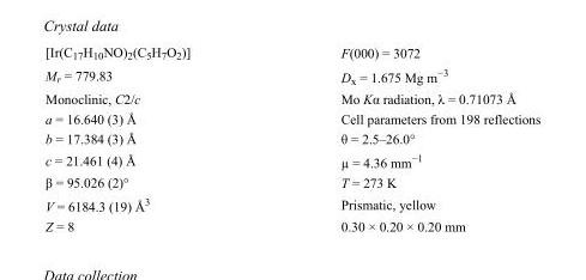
<table><tbody><tr><td>[Ir(C<sub>17</sub>H<sub>10</sub>NO)<sub>2</sub>(C<sub>5</sub>H<sub>7</sub>O<sub>2</sub>)]</td><td>F(000) = 3072</td></tr><tr><td>M<sub>r</sub> = 779.83</td><td>D<sub>x</sub> = 1.675 Mg m<sup>−3</sup></td></tr><tr><td>Monoclinic, C2/c</td><td>Mo Kα radiation, λ = 0.71073 Å</td></tr><tr><td>a = 16.640 (3) Å</td><td>Cell parameters from 198 reflections</td></tr><tr><td>b = 17.384 (3) Å</td><td>θ = 2.5–26.0°</td></tr><tr><td>c = 21.461 (4) Å</td><td>µ = 4.36 mm<sup>−1</sup></td></tr><tr><td>β = 95.026 (2)°</td><td>T = 273 K</td></tr><tr><td>V = 6184.3 (19) Å<sup>3</sup></td><td>Prismatic, yellow</td></tr><tr><td>Z = 8</td><td>0.30 × 0.20 × 0.20 mm</td></tr></tbody></table>